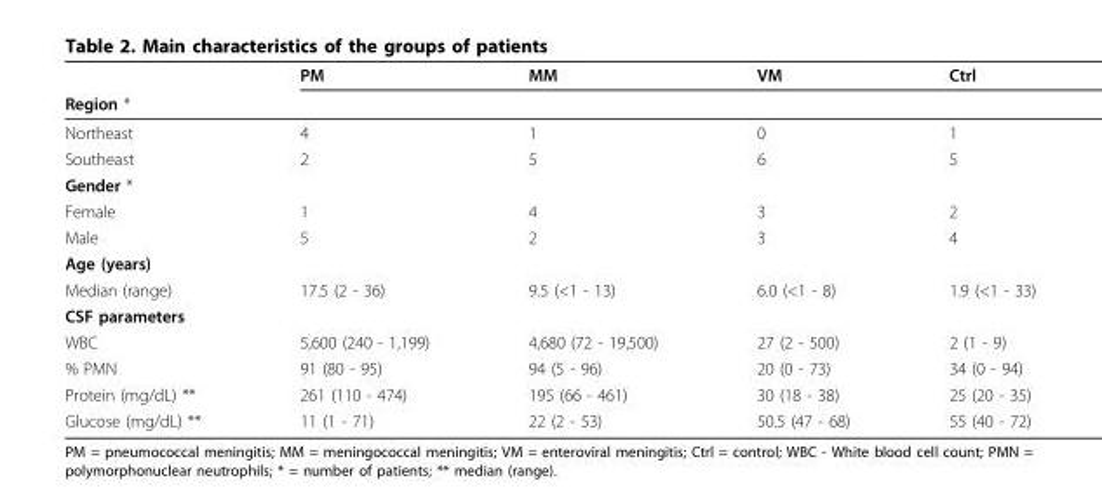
<table><thead><tr><td rowspan="2">Region *</td><td rowspan="2">PM</td><td rowspan="2">MM</td><td rowspan="2">VM</td><td rowspan="2">Ctrl</td></tr><tr></tr></thead><tbody><tr><td>Northeast</td><td>4</td><td>1</td><td>0</td><td>1</td></tr><tr><td>Southeast</td><td>2</td><td>5</td><td>6</td><td>5</td></tr><tr><td colspan="5">Gender *</td></tr><tr><td>Female</td><td>1</td><td>4</td><td>3</td><td>2</td></tr><tr><td>Male</td><td>5</td><td>2</td><td>3</td><td>4</td></tr><tr><td colspan="5">Age (years)</td></tr><tr><td>Median (range)</td><td>17.5 (2 - 36)</td><td>9.5 (&lt;1 - 13)</td><td>6.0 (&lt;1 - 8)</td><td>1.9 (&lt;1 - 33)</td></tr><tr><td colspan="5">CSF parameters</td></tr><tr><td>WBC</td><td>5,600 (240 - 1,199)</td><td>4,680 (72 - 19,500)</td><td>27 (2 - 500)</td><td>2 (1 - 9)</td></tr><tr><td>% PMN</td><td>91 (80 - 95)</td><td>94 (5 - 96)</td><td>20 (0 - 73)</td><td>34 (0 - 94)</td></tr><tr><td>Protein (mg/dL) **</td><td>261 (110 - 474)</td><td>195 (66 - 461)</td><td>30 (18 - 38)</td><td>25 (20 - 35)</td></tr><tr><td>Glucose (mg/dL) **</td><td>11 (1 - 71)</td><td>22 (2 - 53)</td><td>50.5 (47 - 68)</td><td>55 (40 - 72)</td></tr></tbody></table>